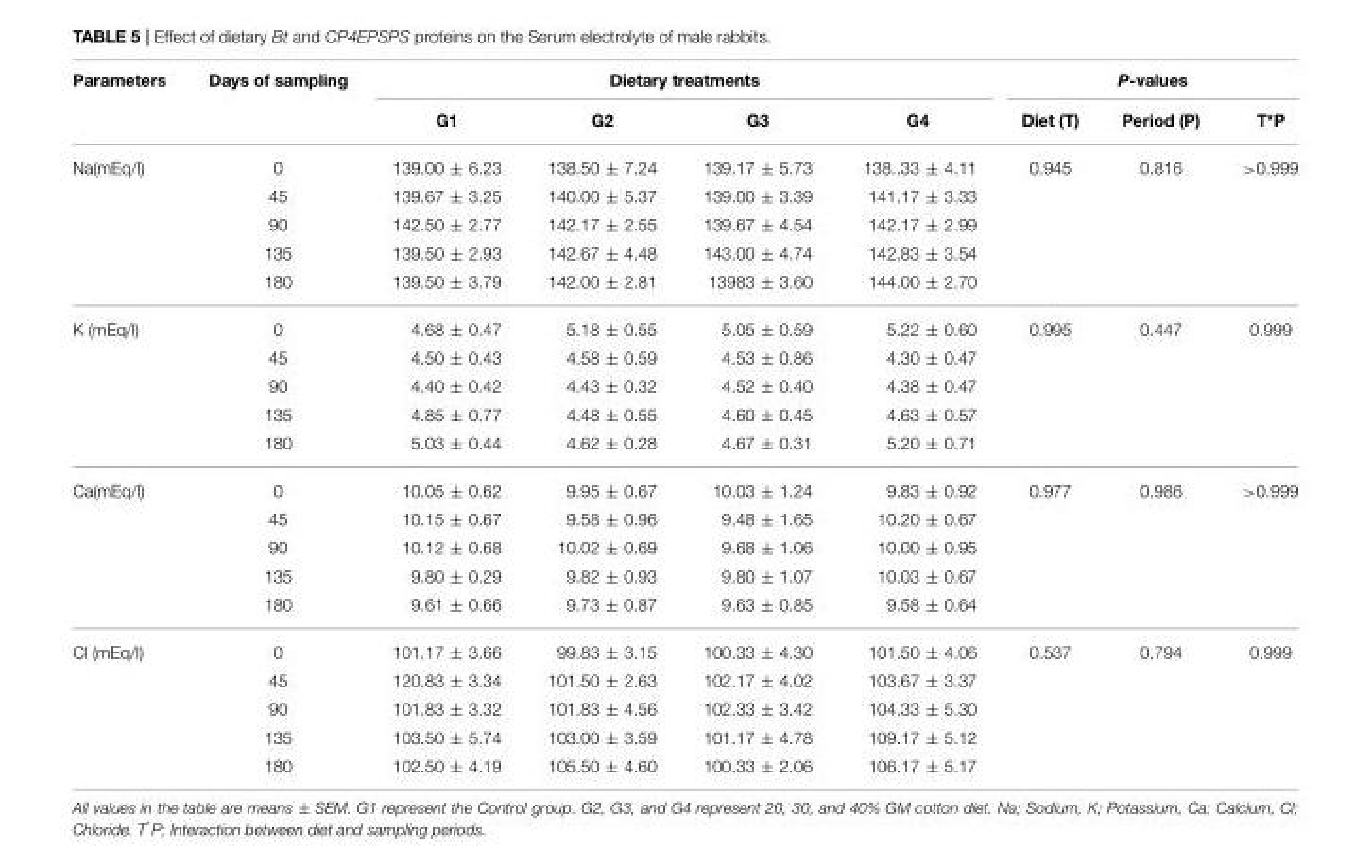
<table><thead><tr><td rowspan="2">Parameters</td><td rowspan="2">Days of sampling</td><td colspan="4">Dietary treatments</td><td colspan="3">P-values</td></tr><tr><td>G1</td><td>G2</td><td>G3</td><td>G4</td><td>Diet (T)</td><td>Period (P)</td><td>T*P</td></tr></thead><tbody><tr><td rowspan="5">Na(mEq/l)</td><td>0</td><td>139.00 ± 6.23</td><td>138.50 ± 7.24</td><td>139.17 ± 5.73</td><td>138..33 ± 4.11</td><td>0.945</td><td>0.816</td><td>&gt;0.999</td></tr><tr><td>45</td><td>139.67 ± 3.25</td><td>140.00 ± 5.37</td><td>139.00 ± 3.39</td><td>141.17 ± 3.33</td><td></td><td></td><td></td></tr><tr><td>90</td><td>142.50 ± 2.77</td><td>142.17 ± 2.55</td><td>139.67 ± 4.54</td><td>142.17 ± 2.99</td><td></td><td></td><td></td></tr><tr><td>135</td><td>139.50 ± 2.93</td><td>142.67 ± 4.48</td><td>143.00 ± 4.74</td><td>142.83 ± 3.54</td><td></td><td></td><td></td></tr><tr><td>180</td><td>139.50 ± 3.79</td><td>142.00 ± 2.81</td><td>13983 ± 3.60</td><td>144.00 ± 2.70</td><td></td><td></td><td></td></tr><tr><td rowspan="5">K (mEq/l)</td><td>0</td><td>4.68 ± 0.47</td><td>5.18 ± 0.55</td><td>5.05 ± 0.59</td><td>5.22 ± 0.60</td><td>0.995</td><td>0.447</td><td>0.999</td></tr><tr><td>45</td><td>4.50 ± 0.43</td><td>4.58 ± 0.59</td><td>4.53 ± 0.86</td><td>4.30 ± 0.47</td><td></td><td></td><td></td></tr><tr><td>90</td><td>4.40 ± 0.42</td><td>4.43 ± 0.32</td><td>4.52 ± 0.40</td><td>4.38 ± 0.47</td><td></td><td></td><td></td></tr><tr><td>135</td><td>4.85 ± 0.77</td><td>4.48 ± 0.55</td><td>4.60 ± 0.45</td><td>4.63 ± 0.57</td><td></td><td></td><td></td></tr><tr><td>180</td><td>5.03 ± 0.44</td><td>4.62 ± 0.28</td><td>4.67 ± 0.31</td><td>5.20 ± 0.71</td><td></td><td></td><td></td></tr><tr><td rowspan="5">Ca(mEq/l)</td><td>0</td><td>10.05 ± 0.62</td><td>9.95 ± 0.67</td><td>10.03 ± 1.24</td><td>9.83 ± 0.92</td><td>0.977</td><td>0.986</td><td>&gt;0.999</td></tr><tr><td>45</td><td>10.15 ± 0.67</td><td>9.58 ± 0.96</td><td>9.48 ± 1.65</td><td>10.20 ± 0.67</td><td></td><td></td><td></td></tr><tr><td>90</td><td>10.12 ± 0.68</td><td>10.02 ± 0.69</td><td>9.68 ± 1.06</td><td>10.00 ± 0.95</td><td></td><td></td><td></td></tr><tr><td>135</td><td>9.80 ± 0.29</td><td>9.82 ± 0.93</td><td>9.80 ± 1.07</td><td>10.03 ± 0.67</td><td></td><td></td><td></td></tr><tr><td>180</td><td>9.61 ± 0.66</td><td>9.73 ± 0.87</td><td>9.63 ± 0.85</td><td>9.58 ± 0.64</td><td></td><td></td><td></td></tr><tr><td rowspan="5">Cl (mEq/l)</td><td>0</td><td>101.17 ± 3.66</td><td>99.83 ± 3.15</td><td>100.33 ± 4.30</td><td>101.50 ± 4.06</td><td>0.537</td><td>0.794</td><td>0.999</td></tr><tr><td>45</td><td>120.83 ± 3.34</td><td>101.50 ± 2.63</td><td>102.17 ± 4.02</td><td>103.67 ± 3.37</td><td></td><td></td><td></td></tr><tr><td>90</td><td>101.83 ± 3.32</td><td>101.83 ± 4.56</td><td>102.33 ± 3.42</td><td>104.33 ± 5.30</td><td></td><td></td><td></td></tr><tr><td>135</td><td>103.50 ± 5.74</td><td>103.00 ± 3.59</td><td>101.17 ± 4.78</td><td>109.17 ± 5.12</td><td></td><td></td><td></td></tr><tr><td>180</td><td>102.50 ± 4.19</td><td>105.50 ± 4.60</td><td>100.33 ± 2.06</td><td>106.17 ± 5.17</td><td></td><td></td><td></td></tr></tbody></table>